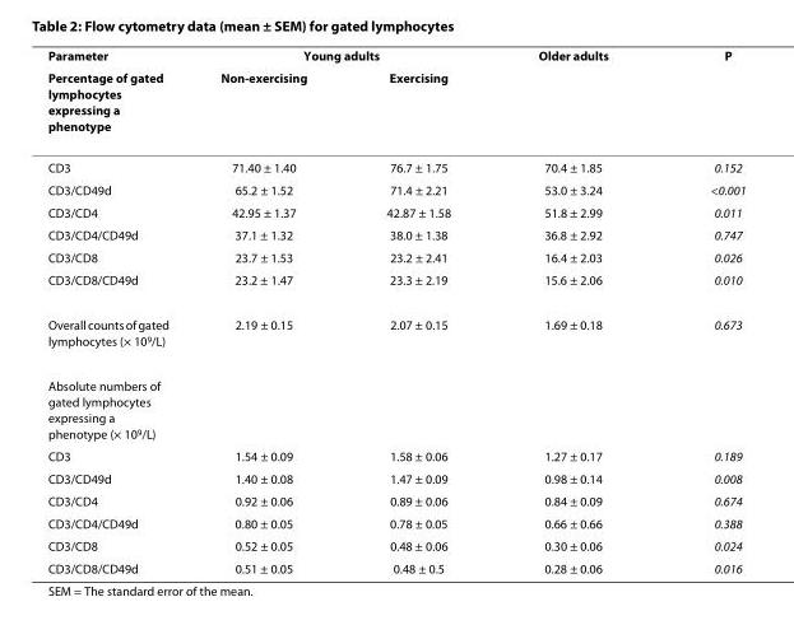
<table><thead><tr><td rowspan="2">Parameter Percentage of gated lymphocytes expressing a phenotype</td><td colspan="2">Young adults</td><td rowspan="2">Older adults</td><td rowspan="2">P</td></tr><tr><td>Non-exercising</td><td>Exercising</td></tr></thead><tbody><tr><td>CD3</td><td>71.40 ± 1.40</td><td>76.7 ± 1.75</td><td>70.4 ± 1.85</td><td>0.152</td></tr><tr><td>CD3/CD49d</td><td>65.2 ± 1.52</td><td>71.4 ± 2.21</td><td>53.0 ± 3.24</td><td>&lt;0.001</td></tr><tr><td>CD3/CD4</td><td>42.95 ± 1.37</td><td>42.87 ± 1.58</td><td>51.8 ± 2.99</td><td>0.011</td></tr><tr><td>CD3/CD4/CD49d</td><td>37.1 ± 1.32</td><td>38.0 ± 1.38</td><td>36.8 ± 2.92</td><td>0.747</td></tr><tr><td>CD3/CD8</td><td>23.7 ± 1.53</td><td>23.2 ± 2.41</td><td>16.4 ± 2.03</td><td>0.026</td></tr><tr><td>CD3/CD8/CD49d</td><td>23.2 ± 1.47</td><td>23.3 ± 2.19</td><td>15.6 ± 2.06</td><td>0.010</td></tr><tr><td>Overall counts of gated lymphocytes (× 10<sup>9</sup>/L)</td><td>2.19 ± 0.15</td><td>2.07 ± 0.15</td><td>1.69 ± 0.18</td><td>0.673</td></tr><tr><td colspan="5">Absolute numbers of gated lymphocytes expressing a phenotype (× 10<sup>9</sup>/L)</td></tr><tr><td>CD3</td><td>1.54 ± 0.09</td><td>1.58 ± 0.06</td><td>1.27 ± 0.17</td><td>0.189</td></tr><tr><td>CD3/CD49d</td><td>1.40 ± 0.08</td><td>1.47 ± 0.09</td><td>0.98 ± 0.14</td><td>0.008</td></tr><tr><td>CD3/CD4</td><td>0.92 ± 0.06</td><td>0.89 ± 0.06</td><td>0.84 ± 0.09</td><td>0.674</td></tr><tr><td>CD3/CD4/CD49d</td><td>0.80 ± 0.05</td><td>0.78 ± 0.05</td><td>0.66 ± 0.66</td><td>0.388</td></tr><tr><td>CD3/CD8</td><td>0.52 ± 0.05</td><td>0.48 ± 0.06</td><td>0.30 ± 0.06</td><td>0.024</td></tr><tr><td>CD3/CD8/CD49d</td><td>0.51 ± 0.05</td><td>0.48 ± 0.5</td><td>0.28 ± 0.06</td><td>0.016</td></tr></tbody></table>